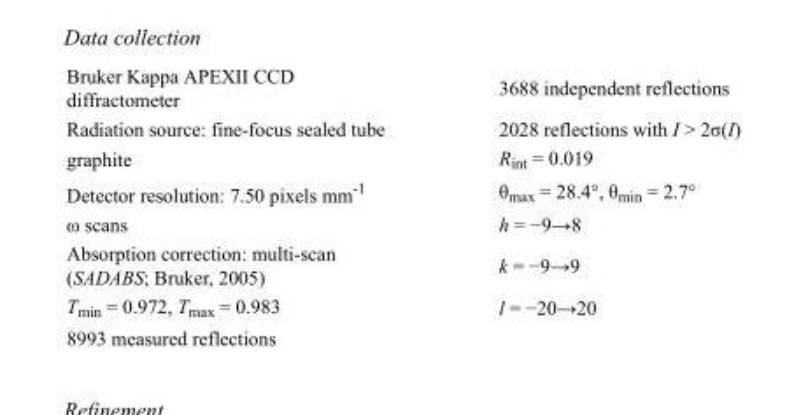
<table><tbody><tr><td>Bruker Kappa APEXII CCD diffractometer</td><td>3688 independent reflections</td></tr><tr><td>Radiation source: fine-focus sealed tube</td><td>2028 reflections with I &gt; 2σ(I)</td></tr><tr><td>graphite</td><td>R<sub>int</sub> = 0.019</td></tr><tr><td>Detector resolution: 7.50 pixels mm<sup>-1</sup></td><td>θ<sub>max</sub> = 28.4°, θ<sub>min</sub> = 2.7°</td></tr><tr><td>ω scans</td><td>h = −9→8</td></tr><tr><td>Absorption correction: multi-scan (SADABS; Bruker, 2005)</td><td>k = −9→9</td></tr><tr><td>T<sub>min</sub> = 0.972, T<sub>max</sub> = 0.983</td><td>l = −20→20</td></tr><tr><td>8993 measured reflections</td><td></td></tr></tbody></table>